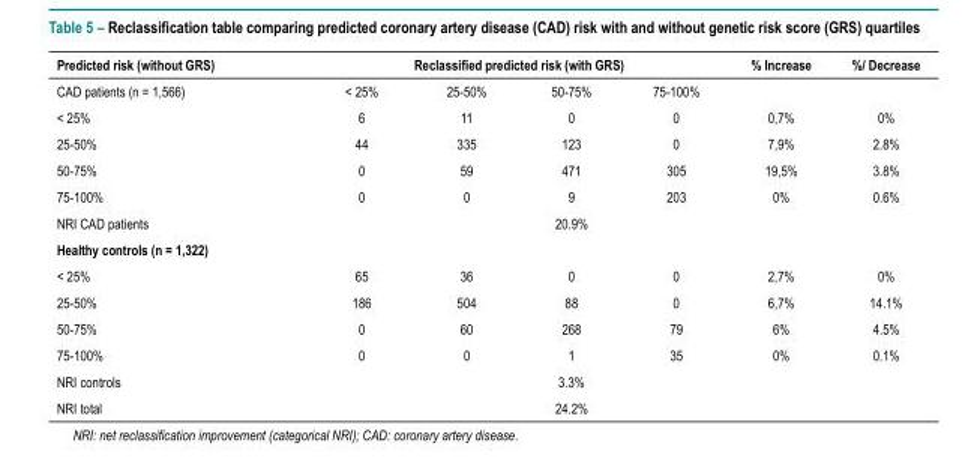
<table><thead><tr><td rowspan="2">Predicted risk (without GRS) CAD patients (n = 1,566)</td><td colspan="4">Reclassified predicted risk (with GRS)</td><td rowspan="2">% Increase</td><td rowspan="2">%/ Decrease</td></tr><tr><td>&lt; 25%</td><td>25-50%</td><td>50-75%</td><td>75-100%</td></tr></thead><tbody><tr><td>&lt; 25%</td><td>6</td><td>11</td><td>0</td><td>0</td><td>0,7%</td><td>0%</td></tr><tr><td>25-50%</td><td>44</td><td>335</td><td>123</td><td>0</td><td>7,9%</td><td>2.8%</td></tr><tr><td>50-75%</td><td>0</td><td>59</td><td>471</td><td>305</td><td>19,5%</td><td>3.8%</td></tr><tr><td>75-100%</td><td>0</td><td>0</td><td>9</td><td>203</td><td>0%</td><td>0.6%</td></tr><tr><td>NRI CAD patients</td><td colspan="5">20.9%</td><td></td></tr><tr><td colspan="7">Healthy controls (n = 1,322)</td></tr><tr><td>&lt; 25%</td><td>65</td><td>36</td><td>0</td><td>0</td><td>2,7%</td><td>0%</td></tr><tr><td>25-50%</td><td>186</td><td>504</td><td>88</td><td>0</td><td>6,7%</td><td>14.1%</td></tr><tr><td>50-75%</td><td>0</td><td>60</td><td>268</td><td>79</td><td>6%</td><td>4.5%</td></tr><tr><td>75-100%</td><td>0</td><td>0</td><td>1</td><td>35</td><td>0%</td><td>0.1%</td></tr><tr><td>NRI controls</td><td colspan="5">3.3%</td><td></td></tr><tr><td>NRI total</td><td colspan="5">24.2%</td><td></td></tr></tbody></table>